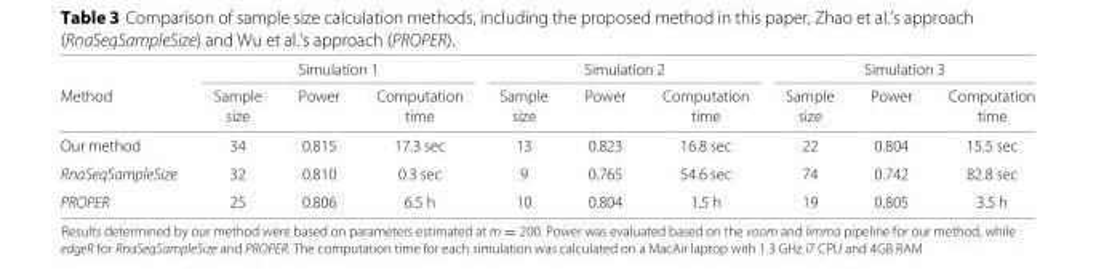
<table><thead><tr><td rowspan="3">Method</td><td colspan="3">Simulation 1</td><td colspan="3">Simulation 2</td><td colspan="3">Simulation 3</td></tr><tr><td rowspan="2">Sample size</td><td rowspan="2">Power</td><td rowspan="2">Computation time</td><td rowspan="2">Sample size</td><td rowspan="2">Power</td><td rowspan="2">Computation time</td><td rowspan="2">Sample size</td><td rowspan="2">Power</td><td rowspan="2">Computation time</td></tr><tr></tr></thead><tbody><tr><td>Our method</td><td>34</td><td>0.815</td><td>17.3 sec</td><td>13</td><td>0.823</td><td>16.8 sec</td><td>22</td><td>0.804</td><td>15.5 sec</td></tr><tr><td>RnaSeqSampleSize</td><td>32</td><td>0.810</td><td>0.3 sec</td><td>9</td><td>0.765</td><td>54.6 sec</td><td>74</td><td>0.742</td><td>82.8 sec</td></tr><tr><td>PROPER</td><td>25</td><td>0.806</td><td>6.5 h</td><td>10</td><td>0.804</td><td>1.5 h</td><td>19</td><td>0.805</td><td>3.5 h</td></tr></tbody></table>